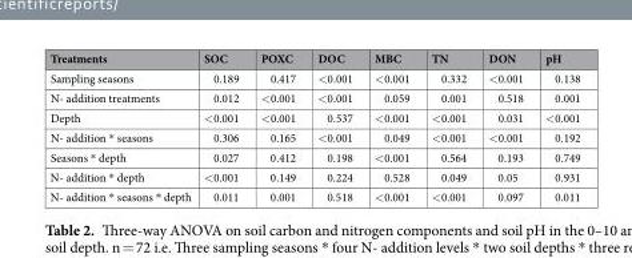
<table><thead><tr><td>Treatments</td><td>SOC</td><td>POXC</td><td>DOC</td><td>MBC</td><td>TN</td><td>DON</td><td>pH</td></tr></thead><tbody><tr><td>Sampling seasons</td><td>0.189</td><td>0.417</td><td>&lt;0.001</td><td>&lt;0.001</td><td>0.332</td><td>&lt;0.001</td><td>0.138</td></tr><tr><td>N- addition treatments</td><td>0.012</td><td>&lt;0.001</td><td>&lt;0.001</td><td>0.059</td><td>0.001</td><td>0.518</td><td>0.001</td></tr><tr><td>Depth</td><td>&lt;0.001</td><td>&lt;0.001</td><td>0.537</td><td>&lt;0.001</td><td>&lt;0.001</td><td>0.031</td><td>&lt;0.001</td></tr><tr><td>N- addition * seasons</td><td>0.306</td><td>0.165</td><td>&lt;0.001</td><td>0.049</td><td>&lt;0.001</td><td>&lt;0.001</td><td>0.192</td></tr><tr><td>Seasons * depth</td><td>0.027</td><td>0.412</td><td>0.198</td><td>&lt;0.001</td><td>0.564</td><td>0.193</td><td>0.749</td></tr><tr><td>N- addition * depth</td><td>&lt;0.001</td><td>0.149</td><td>0.224</td><td>0.528</td><td>0.049</td><td>0.05</td><td>0.931</td></tr><tr><td>N- addition * seasons * depth</td><td>0.011</td><td>0.001</td><td>0.518</td><td>&lt;0.001</td><td>&lt;0.001</td><td>0.097</td><td>0.011</td></tr></tbody></table>